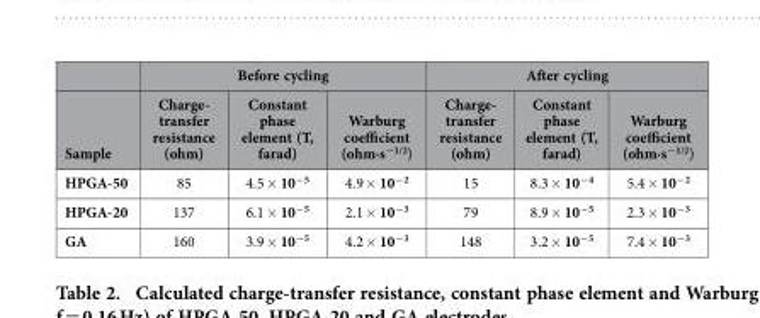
<table><thead><tr><td rowspan="2">Sample</td><td colspan="3">Before cycling</td><td colspan="3">After cycling</td></tr><tr><td>Charge- transfer resistance (ohm)</td><td>Constant phase element (T, farad)</td><td>Warburg coefficient (ohm·s<sup>−1/2</sup>)</td><td>Charge- transfer resistance (ohm)</td><td>Constant phase element (T, farad)</td><td>Warburg coefficient (ohm·s<sup>−1/2</sup>)</td></tr></thead><tbody><tr><td>HPGA-50</td><td>85</td><td>4.5 × 10<sup>−5</sup></td><td>4.9 × 10<sup>−2</sup></td><td>15</td><td>8.3 × 10<sup>−4</sup></td><td>5.4 × 10<sup>−2</sup></td></tr><tr><td>HPGA-20</td><td>137</td><td>6.1 × 10<sup>−5</sup></td><td>2.1 × 10<sup>−3</sup></td><td>79</td><td>8.9 × 10<sup>−5</sup></td><td>2.3 × 10<sup>−3</sup></td></tr><tr><td>GA</td><td>160</td><td>3.9 × 10<sup>−5</sup></td><td>4.2 × 10<sup>−3</sup></td><td>148</td><td>3.2 × 10<sup>−5</sup></td><td>7.4 × 10<sup>−3</sup></td></tr></tbody></table>